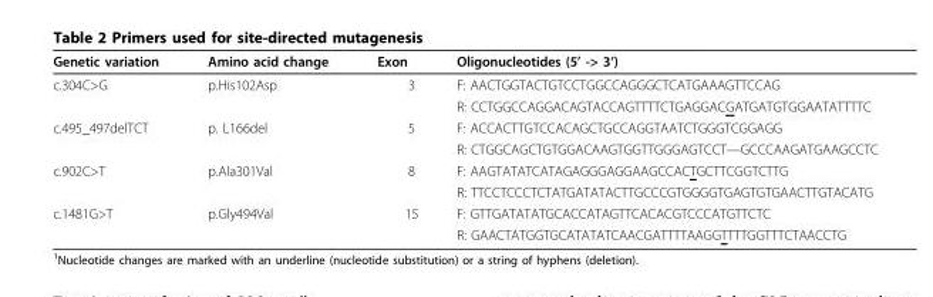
<table><thead><tr><td>Genetic variation</td><td>Amino acid change</td><td>Exon</td><td>Oligonucleotides (5’ -&gt; 3’)</td></tr></thead><tbody><tr><td rowspan="2">c.304C&gt;G</td><td>p.His102Asp</td><td>3</td><td>F: AACTGGTACTGTCCTGGCCAGGGCTCATGAAAGTTCCAG</td></tr><tr><td></td><td></td><td>R: CCTGGCCAGGACAGTACCAGTTTTCTGAGGACGATGATGTGGAATATTTTC</td></tr><tr><td rowspan="2">c.495_497delTCT</td><td>p. L166del</td><td>5</td><td>F: ACCACTTGTCCACAGCTGCCAGGTAATCTGGGTCGGAGG</td></tr><tr><td></td><td></td><td>R: CTGGCAGCTGTGGACAAGTGGTTGGGAGTCCT—GCCCAAGATGAAGCCTC</td></tr><tr><td rowspan="2">c.902C&gt;T</td><td>p.Ala301Val</td><td>8</td><td>F: AAGTATATCATAGAGGGAGGAAGCCACTGCTTCGGTCTTG</td></tr><tr><td></td><td></td><td>R: TTCCTCCCTCTATGATATACTTGCCCGTGGGGTGAGTGTGAACTTGTACATG</td></tr><tr><td rowspan="2">c.1481G&gt;T</td><td>p.Gly494Val</td><td>15</td><td>F: GTTGATATATGCACCATAGTTCACACGTCCCATGTTCTC</td></tr><tr><td></td><td></td><td>R: GAACTATGGTGCATATATCAACGATTTTAAGGTTTTGGTTTCTAACCTG</td></tr></tbody></table>